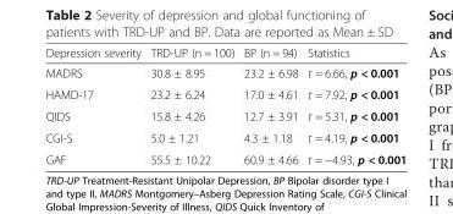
<table><thead><tr><td>Depression severity</td><td>TRD-UP (n = 100)</td><td>BP (n = 94)</td><td>Statistics</td></tr></thead><tbody><tr><td>MADRS</td><td>30.8 ± 8.95</td><td>23.2 ± 6.98</td><td>t = 6.66, p &lt; 0.001</td></tr><tr><td>HAMD-17</td><td>23.2 ± 6.24</td><td>17.0 ± 4.61</td><td>t = 7.92, p &lt; 0.001</td></tr><tr><td>QIDS</td><td>15.8 ± 4.26</td><td>12.7 ± 3.91</td><td>t = 5.31, p &lt; 0.001</td></tr><tr><td>CGI-S</td><td>5.0 ± 1.21</td><td>4.3 ± 1.18</td><td>t = 4.19, p &lt; 0.001</td></tr><tr><td>GAF</td><td>55.5 ± 10.22</td><td>60.9 ± 4.66</td><td>t = −4.93, p &lt; 0.001</td></tr></tbody></table>